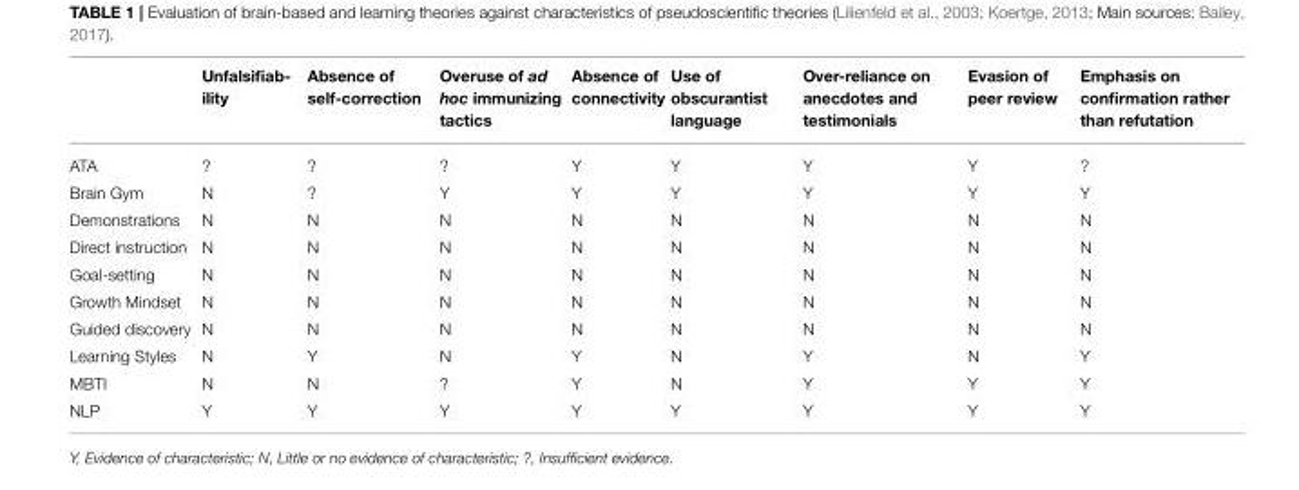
<table><thead><tr><td></td><td>Unfalsifiab- ility</td><td>Absence of self-correction</td><td>Overuse of ad hoc immunizing tactics</td><td>Absence of connectivity</td><td>Use of obscurantist language</td><td>Over-reliance on anecdotes and testimonials</td><td>Evasion of peer review</td><td>Emphasis on confirmation rather than refutation</td></tr></thead><tbody><tr><td>ATA</td><td>?</td><td>?</td><td>?</td><td>Y</td><td>Y</td><td>Y</td><td>Y</td><td>?</td></tr><tr><td>Brain Gym</td><td>N</td><td>?</td><td>Y</td><td>Y</td><td>Y</td><td>Y</td><td>Y</td><td>Y</td></tr><tr><td>Demonstrations</td><td>N</td><td>N</td><td>N</td><td>N</td><td>N</td><td>N</td><td>N</td><td>N</td></tr><tr><td>Direct instruction</td><td>N</td><td>N</td><td>N</td><td>N</td><td>N</td><td>N</td><td>N</td><td>N</td></tr><tr><td>Goal-setting</td><td>N</td><td>N</td><td>N</td><td>N</td><td>N</td><td>N</td><td>N</td><td>N</td></tr><tr><td>Growth Mindset</td><td>N</td><td>N</td><td>N</td><td>N</td><td>N</td><td>N</td><td>N</td><td>N</td></tr><tr><td>Guided discovery</td><td>N</td><td>N</td><td>N</td><td>N</td><td>N</td><td>N</td><td>N</td><td>N</td></tr><tr><td>Learning Styles</td><td>N</td><td>Y</td><td>N</td><td>Y</td><td>N</td><td>Y</td><td>N</td><td>Y</td></tr><tr><td>MBTI</td><td>N</td><td>N</td><td>?</td><td>Y</td><td>N</td><td>Y</td><td>Y</td><td>Y</td></tr><tr><td>NLP</td><td>Y</td><td>Y</td><td>Y</td><td>Y</td><td>Y</td><td>Y</td><td>Y</td><td>Y</td></tr></tbody></table>